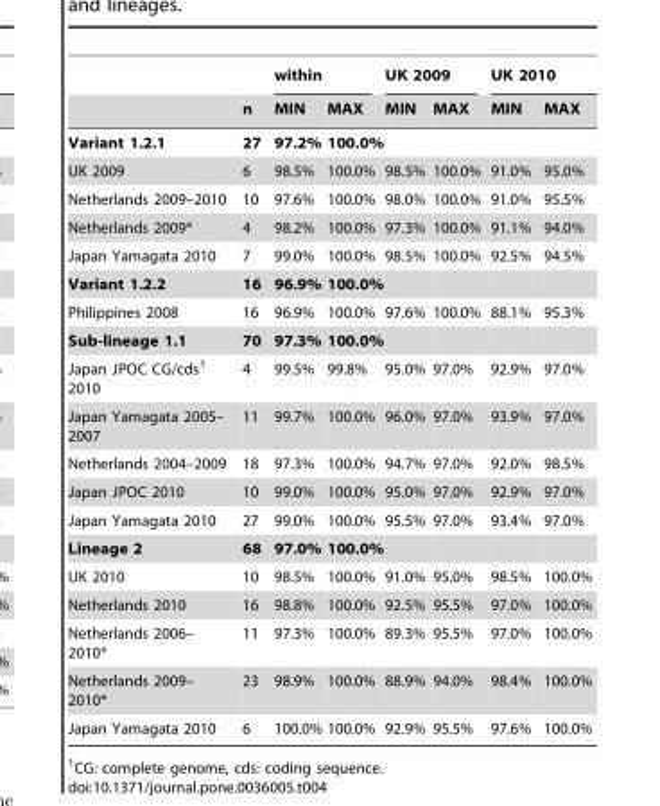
<table><thead><tr><td rowspan="2"></td><td rowspan="2">n</td><td colspan="2">within</td><td colspan="2">UK 2009</td><td colspan="2">UK 2010</td></tr><tr><td>MIN</td><td>MAX</td><td>MIN</td><td>MAX</td><td>MIN</td><td>MAX</td></tr></thead><tbody><tr><td>Variant 1.2.1</td><td>27</td><td>97.2%</td><td>100.0%</td><td></td><td></td><td></td><td></td></tr><tr><td>UK 2009</td><td>6</td><td>98.5%</td><td>100.0%</td><td>98.5%</td><td>100.0%</td><td>91.0%</td><td>95.0%</td></tr><tr><td>Netherlands 2009–2010</td><td>10</td><td>97.6%</td><td>100.0%</td><td>98.0%</td><td>100.0%</td><td>91.0%</td><td>95.5%</td></tr><tr><td>Netherlands 2009*</td><td>4</td><td>98.2%</td><td>100.0%</td><td>97.3%</td><td>100.0%</td><td>91.1%</td><td>94.0%</td></tr><tr><td>Japan Yamagata 2010</td><td>7</td><td>99.0%</td><td>100.0%</td><td>98.5%</td><td>100.0%</td><td>92.5%</td><td>94.5%</td></tr><tr><td>Variant 1.2.2</td><td>16</td><td>96.9%</td><td>100.0%</td><td></td><td></td><td></td><td></td></tr><tr><td>Philippines 2008</td><td>16</td><td>96.9%</td><td>100.0%</td><td>97.6%</td><td>100.0%</td><td>88.1%</td><td>95.3%</td></tr><tr><td>Sub-lineage 1.1</td><td>70</td><td>97.3%</td><td>100.0%</td><td></td><td></td><td></td><td></td></tr><tr><td>Japan JPOC CG/cds<sup>1</sup> 2010</td><td>4</td><td>99.5%</td><td>99.8%</td><td>95.0%</td><td>97.0%</td><td>92.9%</td><td>97.0%</td></tr><tr><td>Japan Yamagata 2005– 2007</td><td>11</td><td>99.7%</td><td>100.0%</td><td>96.0%</td><td>97.0%</td><td>93.9%</td><td>97.0%</td></tr><tr><td>Netherlands 2004–2009</td><td>18</td><td>97.3%</td><td>100.0%</td><td>94.7%</td><td>97.0%</td><td>92.0%</td><td>98.5%</td></tr><tr><td>Japan JPOC 2010</td><td>10</td><td>99.0%</td><td>100.0%</td><td>95.0%</td><td>97.0%</td><td>92.9%</td><td>97.0%</td></tr><tr><td>Japan Yamagata 2010</td><td>27</td><td>99.0%</td><td>100.0%</td><td>95.5%</td><td>97.0%</td><td>93.4%</td><td>97.0%</td></tr><tr><td>Lineage 2</td><td>68</td><td>97.0%</td><td>100.0%</td><td></td><td></td><td></td><td></td></tr><tr><td>UK 2010</td><td>10</td><td>98.5%</td><td>100.0%</td><td>91.0%</td><td>95.0%</td><td>98.5%</td><td>100.0%</td></tr><tr><td>Netherlands 2010</td><td>16</td><td>98.8%</td><td>100.0%</td><td>92.5%</td><td>95.5%</td><td>97.0%</td><td>100.0%</td></tr><tr><td>Netherlands 2006– 2010*</td><td>11</td><td>97.3%</td><td>100.0%</td><td>89.3%</td><td>95.5%</td><td>97.0%</td><td>100.0%</td></tr><tr><td>Netherlands 2009– 2010*</td><td>23</td><td>98.9%</td><td>100.0%</td><td>88.9%</td><td>94.0%</td><td>98.4%</td><td>100.0%</td></tr><tr><td>Japan Yamagata 2010</td><td>6</td><td>100.0%</td><td>100.0%</td><td>92.9%</td><td>95.5%</td><td>97.6%</td><td>100.0%</td></tr></tbody></table>